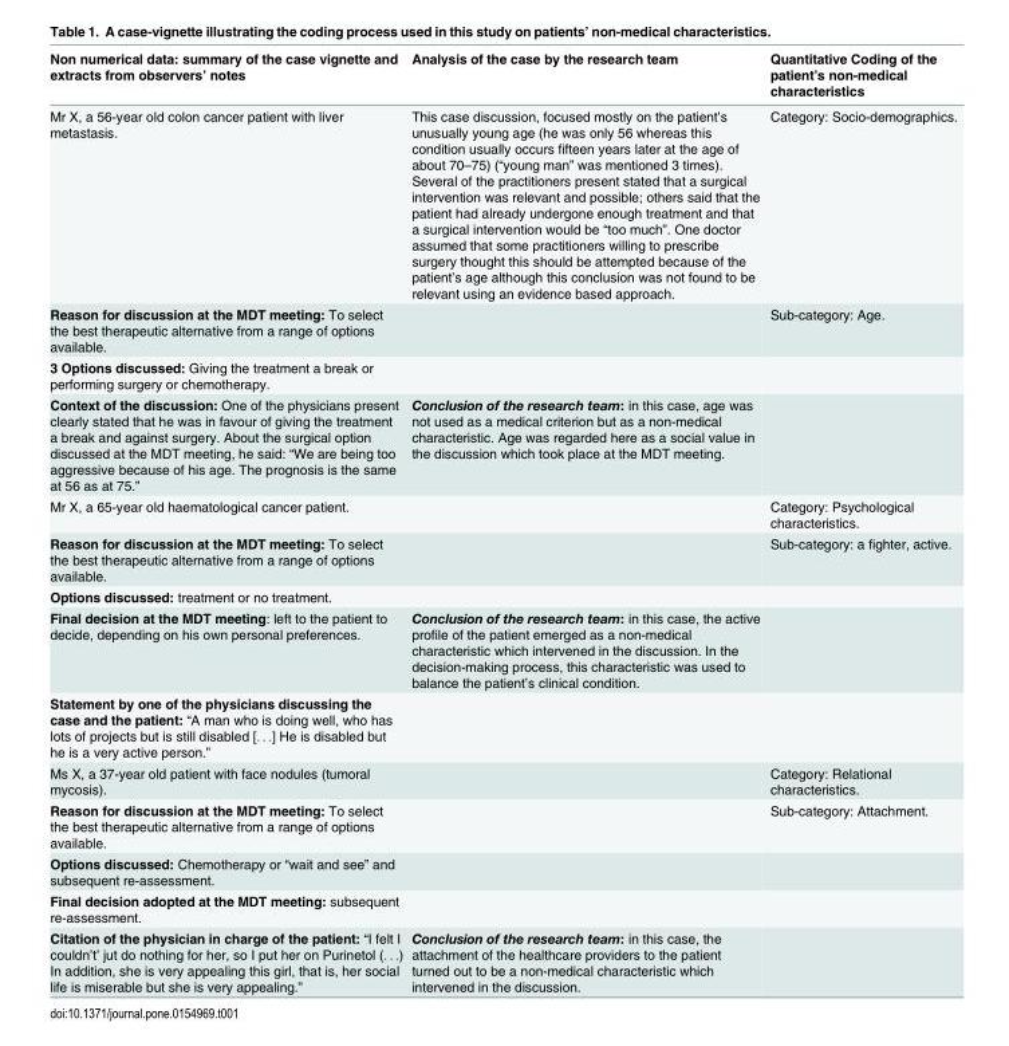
<table><thead><tr><td>Non numerical data: summary of the case vignette and extracts from observers’ notes</td><td>Analysis of the case by the research team</td><td>Quantitative Coding of the patient’s non-medical characteristics</td></tr></thead><tbody><tr><td>Mr X, a 56-year old colon cancer patient with liver metastasis.</td><td>This case discussion, focused mostly on the patient’s unusually young age (he was only 56 whereas this condition usually occurs fifteen years later at the age of about 70–75) (“young man” was mentioned 3 times). Several of the practitioners present stated that a surgical intervention was relevant and possible; others said that the patient had already undergone enough treatment and that a surgical intervention would be “too much”. One doctor assumed that some practitioners willing to prescribe surgery thought this should be attempted because of the patient’s age although this conclusion was not found to be relevant using an evidence based approach.</td><td>Category: Socio-demographics.</td></tr><tr><td>Reason for discussion at the MDT meeting: To select the best therapeutic alternative from a range of options available.</td><td></td><td>Sub-category: Age.</td></tr><tr><td colspan="3">3 Options discussed: Giving the treatment a break or performing surgery or chemotherapy.</td></tr><tr><td>Context of the discussion: One of the physicians present clearly stated that he was in favour of giving the treatment a break and against surgery. About the surgical option discussed at the MDT meeting, he said: “We are being too aggressive because of his age. The prognosis is the same at 56 as at 75.”</td><td>Conclusion of the research team: in this case, age was not used as a medical criterion but as a non-medical characteristic. Age was regarded here as a social value in the discussion which took place at the MDT meeting.</td><td></td></tr><tr><td>Mr X, a 65-year old haematological cancer patient.</td><td></td><td>Category: Psychological characteristics.</td></tr><tr><td>Reason for discussion at the MDT meeting: To select the best therapeutic alternative from a range of options available.</td><td></td><td>Sub-category: a fighter, active.</td></tr><tr><td colspan="3">Options discussed: treatment or no treatment.</td></tr><tr><td>Final decision at the MDT meeting: left to the patient to decide, depending on his own personal preferences.</td><td>Conclusion of the research team: in this case, the active profile of the patient emerged as a non-medical characteristic which intervened in the discussion. In the decision-making process, this characteristic was used to balance the patient’s clinical condition.</td><td></td></tr><tr><td colspan="3">Statement by one of the physicians discussing the case and the patient: “A man who is doing well, who has lots of projects but is still disabled [. . .] He is disabled but he is a very active person.”</td></tr><tr><td>Ms X, a 37-year old patient with face nodules (tumoral mycosis).</td><td></td><td>Category: Relational characteristics.</td></tr><tr><td>Reason for discussion at the MDT meeting: To select the best therapeutic alternative from a range of options available.</td><td></td><td>Sub-category: Attachment.</td></tr><tr><td colspan="3">Options discussed: Chemotherapy or “wait and see” and subsequent re-assessment.</td></tr><tr><td colspan="3">Final decision adopted at the MDT meeting: subsequent re-assessment.</td></tr><tr><td>Citation of the physician in charge of the patient: “I felt I couldn’t’ jut do nothing for her, so I put her on Purinetol (. . .) In addition, she is very appealing this girl, that is, her social life is miserable but she is very appealing.”</td><td>Conclusion of the research team: in this case, the attachment of the healthcare providers to the patient turned out to be a non-medical characteristic which intervened in the discussion.</td><td></td></tr></tbody></table>